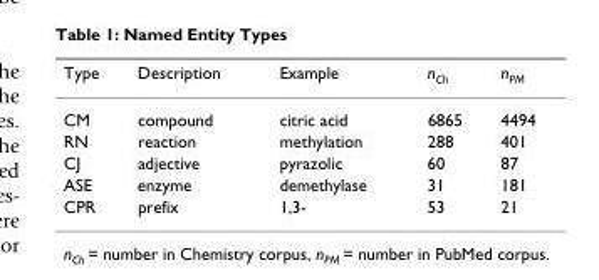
<table><thead><tr><td>Type</td><td>Description</td><td>Example</td><td>n<sub>Ch</sub></td><td>n<sub>PM</sub></td></tr></thead><tbody><tr><td>CM</td><td>compound</td><td>citric acid</td><td>6865</td><td>4494</td></tr><tr><td>RN</td><td>reaction</td><td>methylation</td><td>288</td><td>401</td></tr><tr><td>CJ</td><td>adjective</td><td>pyrazolic</td><td>60</td><td>87</td></tr><tr><td>ASE</td><td>enzyme</td><td>demethylase</td><td>31</td><td>181</td></tr><tr><td>CPR</td><td>prefix</td><td>1,3-</td><td>53</td><td>21</td></tr></tbody></table>